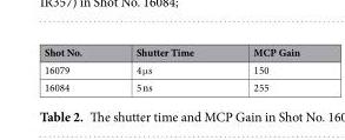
<table><thead><tr><td>Shot No.</td><td>Shutter Time</td><td>MCP Gain</td></tr></thead><tbody><tr><td>16079</td><td>4 μs</td><td>150</td></tr><tr><td>16084</td><td>5 ns</td><td>255</td></tr></tbody></table>